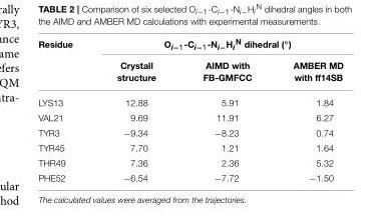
<table><thead><tr><td rowspan="2">Residue</td><td colspan="3">Oi−1-Ci−1-Ni−HiN dihedral (◦)</td></tr><tr><td>Crystall structure</td><td>AIMD with FB-GMFCC</td><td>AMBER MD with ff14SB</td></tr></thead><tbody><tr><td>LYS13</td><td>12.88</td><td>5.91</td><td>1.84</td></tr><tr><td>VAL21</td><td>9.69</td><td>11.91</td><td>6.27</td></tr><tr><td>TYR3</td><td>−9.34</td><td>−8.23</td><td>0.74</td></tr><tr><td>TYR45</td><td>7.70</td><td>1.21</td><td>1.64</td></tr><tr><td>THR49</td><td>7.36</td><td>2.36</td><td>5.32</td></tr><tr><td>PHE52</td><td>−6.54</td><td>−7.72</td><td>−1.50</td></tr></tbody></table>